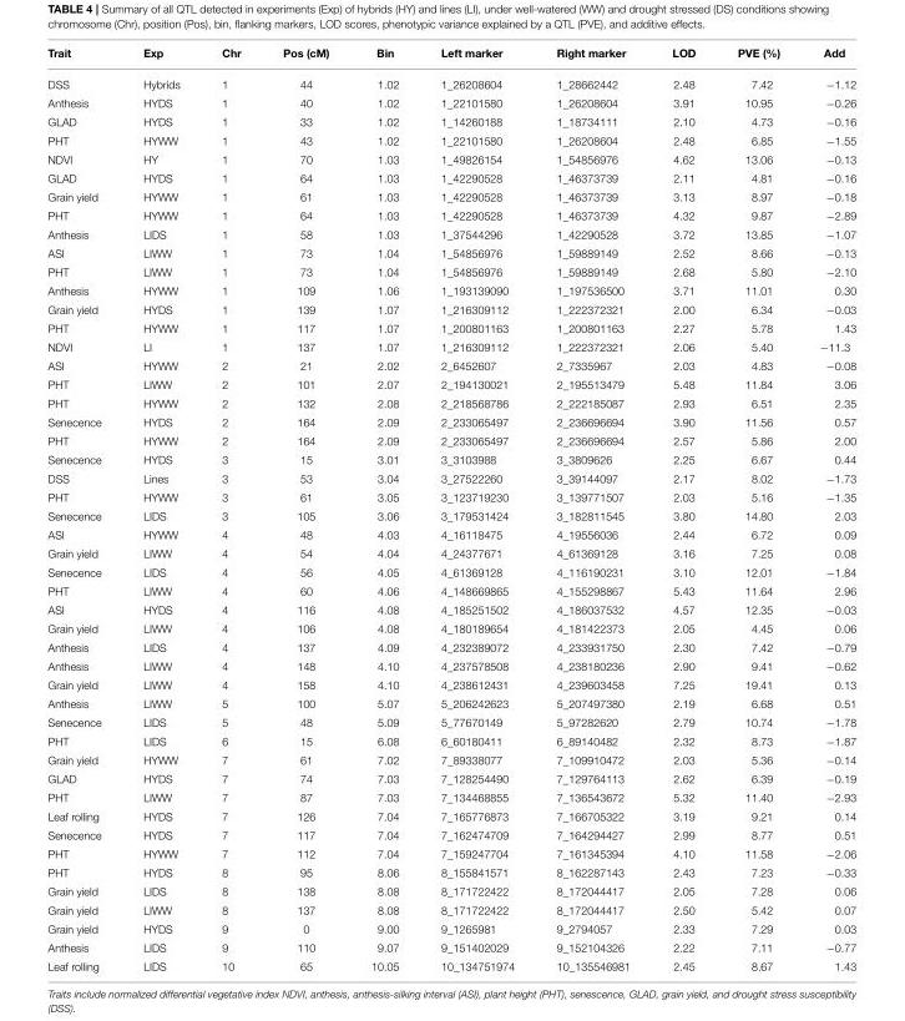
<table><thead><tr><td>Trait</td><td>Exp</td><td>Chr</td><td>Pos (cM)</td><td>Bin</td><td>Left marker</td><td>Right marker</td><td>LOD</td><td>PVE (%)</td><td>Add</td></tr></thead><tbody><tr><td>DSS</td><td>Hybrids</td><td>1</td><td>44</td><td>1.02</td><td>1_26208604</td><td>1_28662442</td><td>2.48</td><td>7.42</td><td>−1.12</td></tr><tr><td>Anthesis</td><td>HYDS</td><td>1</td><td>40</td><td>1.02</td><td>1_22101580</td><td>1_26208604</td><td>3.91</td><td>10.95</td><td>−0.26</td></tr><tr><td>GLAD</td><td>HYDS</td><td>1</td><td>33</td><td>1.02</td><td>1_14260188</td><td>1_18734111</td><td>2.10</td><td>4.73</td><td>−0.16</td></tr><tr><td>PHT</td><td>HYWW</td><td>1</td><td>43</td><td>1.02</td><td>1_22101580</td><td>1_26208604</td><td>2.48</td><td>6.85</td><td>−1.55</td></tr><tr><td>NDVI</td><td>HY</td><td>1</td><td>70</td><td>1.03</td><td>1_49826154</td><td>1_54856976</td><td>4.62</td><td>13.06</td><td>−0.13</td></tr><tr><td>GLAD</td><td>HYDS</td><td>1</td><td>64</td><td>1.03</td><td>1_42290528</td><td>1_46373739</td><td>2.11</td><td>4.81</td><td>−0.16</td></tr><tr><td>Grain yield</td><td>HYWW</td><td>1</td><td>61</td><td>1.03</td><td>1_42290528</td><td>1_46373739</td><td>3.13</td><td>8.97</td><td>−0.18</td></tr><tr><td>PHT</td><td>HYWW</td><td>1</td><td>64</td><td>1.03</td><td>1_42290528</td><td>1_46373739</td><td>4.32</td><td>9.87</td><td>−2.89</td></tr><tr><td>Anthesis</td><td>LIDS</td><td>1</td><td>58</td><td>1.03</td><td>1_37544296</td><td>1_42290528</td><td>3.72</td><td>13.85</td><td>−1.07</td></tr><tr><td>ASI</td><td>LIWW</td><td>1</td><td>73</td><td>1.04</td><td>1_54856976</td><td>1_59889149</td><td>2.52</td><td>8.66</td><td>−0.13</td></tr><tr><td>PHT</td><td>LIWW</td><td>1</td><td>73</td><td>1.04</td><td>1_54856976</td><td>1_59889149</td><td>2.68</td><td>5.80</td><td>−2.10</td></tr><tr><td>Anthesis</td><td>HYWW</td><td>1</td><td>109</td><td>1.06</td><td>1_193139090</td><td>1_197536500</td><td>3.71</td><td>11.01</td><td>0.30</td></tr><tr><td>Grain yield</td><td>HYDS</td><td>1</td><td>139</td><td>1.07</td><td>1_216309112</td><td>1_222372321</td><td>2.00</td><td>6.34</td><td>−0.03</td></tr><tr><td>PHT</td><td>HYWW</td><td>1</td><td>117</td><td>1.07</td><td>1_200801163</td><td>1_200801163</td><td>2.27</td><td>5.78</td><td>1.43</td></tr><tr><td>NDVI</td><td>LI</td><td>1</td><td>137</td><td>1.07</td><td>1_216309112</td><td>1_222372321</td><td>2.06</td><td>5.40</td><td>−11.3</td></tr><tr><td>ASI</td><td>HYWW</td><td>2</td><td>21</td><td>2.02</td><td>2_6452607</td><td>2_7335967</td><td>2.03</td><td>4.83</td><td>−0.08</td></tr><tr><td>PHT</td><td>LIWW</td><td>2</td><td>101</td><td>2.07</td><td>2_194130021</td><td>2_195513479</td><td>5.48</td><td>11.84</td><td>3.06</td></tr><tr><td>PHT</td><td>HYWW</td><td>2</td><td>132</td><td>2.08</td><td>2_218568786</td><td>2_222185087</td><td>2.93</td><td>6.51</td><td>2.35</td></tr><tr><td>Senecence</td><td>HYDS</td><td>2</td><td>164</td><td>2.09</td><td>2_233065497</td><td>2_236696694</td><td>3.90</td><td>11.56</td><td>0.57</td></tr><tr><td>PHT</td><td>HYWW</td><td>2</td><td>164</td><td>2.09</td><td>2_233065497</td><td>2_236696694</td><td>2.57</td><td>5.86</td><td>2.00</td></tr><tr><td>Senecence</td><td>HYDS</td><td>3</td><td>15</td><td>3.01</td><td>3_3103988</td><td>3_3809626</td><td>2.25</td><td>6.67</td><td>0.44</td></tr><tr><td>DSS</td><td>Lines</td><td>3</td><td>53</td><td>3.04</td><td>3_27522260</td><td>3_39144097</td><td>2.17</td><td>8.02</td><td>−1.73</td></tr><tr><td>PHT</td><td>HYWW</td><td>3</td><td>61</td><td>3.05</td><td>3_123719230</td><td>3_139771507</td><td>2.03</td><td>5.16</td><td>−1.35</td></tr><tr><td>Senecence</td><td>LIDS</td><td>3</td><td>105</td><td>3.06</td><td>3_179531424</td><td>3_182811545</td><td>3.80</td><td>14.80</td><td>2.03</td></tr><tr><td>ASI</td><td>HYWW</td><td>4</td><td>48</td><td>4.03</td><td>4_16118475</td><td>4_19556036</td><td>2.44</td><td>6.72</td><td>0.09</td></tr><tr><td>Grain yield</td><td>LIWW</td><td>4</td><td>54</td><td>4.04</td><td>4_24377671</td><td>4_61369128</td><td>3.16</td><td>7.25</td><td>0.08</td></tr><tr><td>Senecence</td><td>LIDS</td><td>4</td><td>56</td><td>4.05</td><td>4_61369128</td><td>4_116190231</td><td>3.10</td><td>12.01</td><td>−1.84</td></tr><tr><td>PHT</td><td>LIWW</td><td>4</td><td>60</td><td>4.06</td><td>4_148669865</td><td>4_155298867</td><td>5.43</td><td>11.64</td><td>2.96</td></tr><tr><td>ASI</td><td>HYDS</td><td>4</td><td>116</td><td>4.08</td><td>4_185251502</td><td>4_186037532</td><td>4.57</td><td>12.35</td><td>−0.03</td></tr><tr><td>Grain yield</td><td>LIWW</td><td>4</td><td>106</td><td>4.08</td><td>4_180189654</td><td>4_181422373</td><td>2.05</td><td>4.45</td><td>0.06</td></tr><tr><td>Anthesis</td><td>LIDS</td><td>4</td><td>137</td><td>4.09</td><td>4_232389072</td><td>4_233931750</td><td>2.30</td><td>7.42</td><td>−0.79</td></tr><tr><td>Anthesis</td><td>LIWW</td><td>4</td><td>148</td><td>4.10</td><td>4_237578508</td><td>4_238180236</td><td>2.90</td><td>9.41</td><td>−0.62</td></tr><tr><td>Grain yield</td><td>LIWW</td><td>4</td><td>158</td><td>4.10</td><td>4_238612431</td><td>4_239603458</td><td>7.25</td><td>19.41</td><td>0.13</td></tr><tr><td>Anthesis</td><td>LIWW</td><td>5</td><td>100</td><td>5.07</td><td>5_206242623</td><td>5_207497380</td><td>2.19</td><td>6.68</td><td>0.51</td></tr><tr><td>Senecence</td><td>LIDS</td><td>5</td><td>48</td><td>5.09</td><td>5_77670149</td><td>5_97282620</td><td>2.79</td><td>10.74</td><td>−1.78</td></tr><tr><td>PHT</td><td>LIDS</td><td>6</td><td>15</td><td>6.08</td><td>6_60180411</td><td>6_89140482</td><td>2.32</td><td>8.73</td><td>−1.87</td></tr><tr><td>Grain yield</td><td>HYWW</td><td>7</td><td>61</td><td>7.02</td><td>7_89338077</td><td>7_109910472</td><td>2.03</td><td>5.36</td><td>−0.14</td></tr><tr><td>GLAD</td><td>HYDS</td><td>7</td><td>74</td><td>7.03</td><td>7_128254490</td><td>7_129764113</td><td>2.62</td><td>6.39</td><td>−0.19</td></tr><tr><td>PHT</td><td>LIWW</td><td>7</td><td>87</td><td>7.03</td><td>7_134468855</td><td>7_136543672</td><td>5.32</td><td>11.40</td><td>−2.93</td></tr><tr><td>Leaf rolling</td><td>HYDS</td><td>7</td><td>126</td><td>7.04</td><td>7_165776873</td><td>7_166705322</td><td>3.19</td><td>9.21</td><td>0.14</td></tr><tr><td>Senecence</td><td>HYDS</td><td>7</td><td>117</td><td>7.04</td><td>7_162474709</td><td>7_164294427</td><td>2.99</td><td>8.77</td><td>0.51</td></tr><tr><td>PHT</td><td>HYWW</td><td>7</td><td>112</td><td>7.04</td><td>7_159247704</td><td>7_161345394</td><td>4.10</td><td>11.58</td><td>−2.06</td></tr><tr><td>PHT</td><td>HYDS</td><td>8</td><td>95</td><td>8.06</td><td>8_155841571</td><td>8_162287143</td><td>2.43</td><td>7.23</td><td>−0.33</td></tr><tr><td>Grain yield</td><td>LIDS</td><td>8</td><td>138</td><td>8.08</td><td>8_171722422</td><td>8_172044417</td><td>2.05</td><td>7.28</td><td>0.06</td></tr><tr><td>Grain yield</td><td>LIWW</td><td>8</td><td>137</td><td>8.08</td><td>8_171722422</td><td>8_172044417</td><td>2.50</td><td>5.42</td><td>0.07</td></tr><tr><td>Grain yield</td><td>HYDS</td><td>9</td><td>0</td><td>9.00</td><td>9_1265981</td><td>9_2794057</td><td>2.33</td><td>7.29</td><td>0.03</td></tr><tr><td>Anthesis</td><td>LIDS</td><td>9</td><td>110</td><td>9.07</td><td>9_151402029</td><td>9_152104326</td><td>2.22</td><td>7.11</td><td>−0.77</td></tr><tr><td>Leaf rolling</td><td>LIDS</td><td>10</td><td>65</td><td>10.05</td><td>10_134751974</td><td>10_135546981</td><td>2.45</td><td>8.67</td><td>1.43</td></tr></tbody></table>